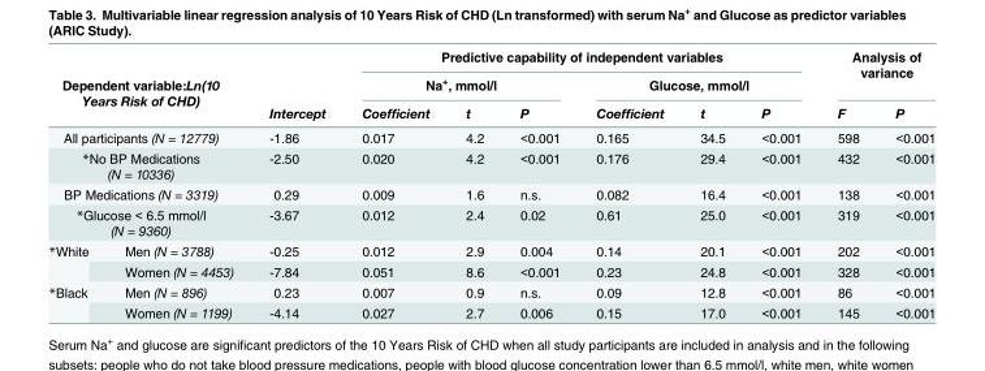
<table><thead><tr><td></td><td></td><td rowspan="3">Intercept</td><td colspan="6">Predictive capability of independent variables</td><td rowspan="2" colspan="2">Analysis of variance</td></tr><tr><td rowspan="2" colspan="2">Dependent variable:Ln(10 Years Risk of CHD)</td><td colspan="3">Na<sup>+</sup>, mmol/l</td><td colspan="3">Glucose, mmol/l</td></tr><tr><td>Coefficient</td><td>t</td><td>P</td><td>Coefficient</td><td>t</td><td>P</td><td>F</td><td>P</td></tr></thead><tbody><tr><td colspan="2">All participants (N = 12779)</td><td>-1.86</td><td>0.017</td><td>4.2</td><td>&lt;0.001</td><td>0.165</td><td>34.5</td><td>&lt;0.001</td><td>598</td><td>&lt;0.001</td></tr><tr><td colspan="2">*No BP Medications (N = 10336)</td><td>-2.50</td><td>0.020</td><td>4.2</td><td>&lt;0.001</td><td>0.176</td><td>29.4</td><td>&lt;0.001</td><td>432</td><td>&lt;0.001</td></tr><tr><td colspan="2">BP Medications (N = 3319)</td><td>0.29</td><td>0.009</td><td>1.6</td><td>n.s.</td><td>0.082</td><td>16.4</td><td>&lt;0.001</td><td>138</td><td>&lt;0.001</td></tr><tr><td colspan="2">*Glucose &lt; 6.5 mmol/l (N = 9360)</td><td>-3.67</td><td>0.012</td><td>2.4</td><td>0.02</td><td>0.61</td><td>25.0</td><td>&lt;0.001</td><td>319</td><td>&lt;0.001</td></tr><tr><td rowspan="2">*White</td><td>Men (N = 3788)</td><td>-0.25</td><td>0.012</td><td>2.9</td><td>0.004</td><td>0.14</td><td>20.1</td><td>&lt;0.001</td><td>202</td><td>&lt;0.001</td></tr><tr><td>Women (N = 4453)</td><td>-7.84</td><td>0.051</td><td>8.6</td><td>&lt;0.001</td><td>0.23</td><td>24.8</td><td>&lt;0.001</td><td>328</td><td>&lt;0.001</td></tr><tr><td rowspan="2">*Black</td><td>Men (N = 896)</td><td>0.23</td><td>0.007</td><td>0.9</td><td>n.s.</td><td>0.09</td><td>12.8</td><td>&lt;0.001</td><td>86</td><td>&lt;0.001</td></tr><tr><td>Women (N = 1199)</td><td>-4.14</td><td>0.027</td><td>2.7</td><td>0.006</td><td>0.15</td><td>17.0</td><td>&lt;0.001</td><td>145</td><td>&lt;0.001</td></tr></tbody></table>